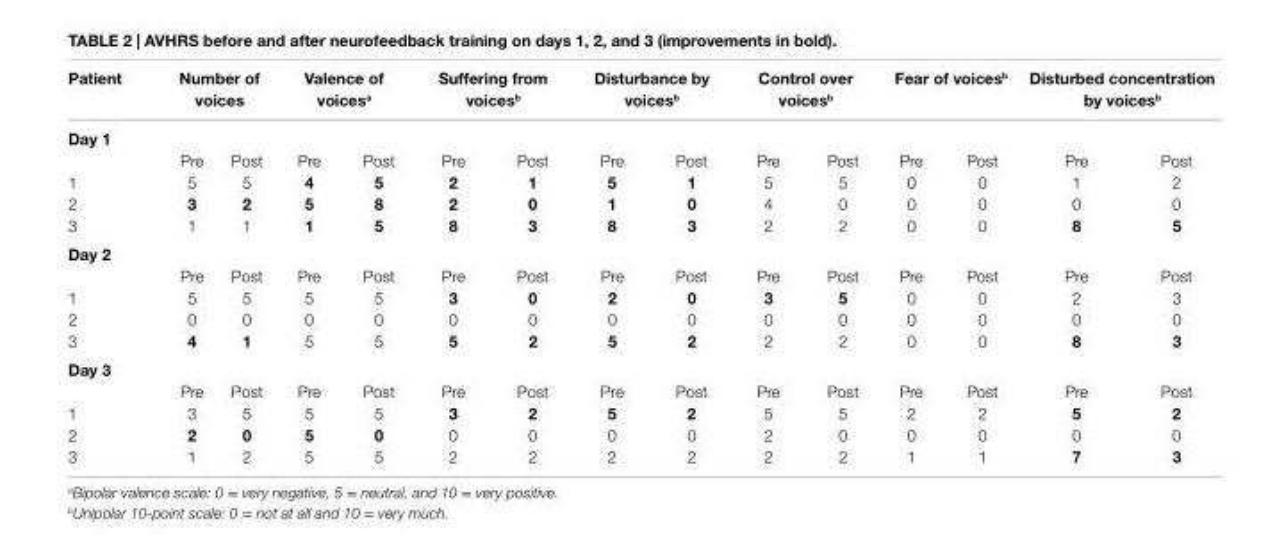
<table><thead><tr><td>patient</td><td colspan="2">Number of voices</td><td colspan="2">Valence of voices<sup>a</sup></td><td colspan="2">suffering from voices<sup>b</sup></td><td colspan="2">Disturbance by voices<sup>b</sup></td><td colspan="2">Control over voices<sup>b</sup></td><td colspan="2">Fear of voices<sup>b</sup></td><td colspan="2">Disturbed concentration by voices<sup>b</sup></td></tr><tr><td colspan="15">Day 1</td></tr><tr><td></td><td>Pre</td><td>Post</td><td>Pre</td><td>Post</td><td>Pre</td><td>Post</td><td>Pre</td><td>Post</td><td>Pre</td><td>Post</td><td>Pre</td><td>Post</td><td>Pre</td><td>Post</td></tr></thead><tbody><tr><td>1</td><td>5</td><td>5</td><td>4</td><td>5</td><td>2</td><td>1</td><td>5</td><td>1</td><td>5</td><td>5</td><td>0</td><td>0</td><td>1</td><td>2</td></tr><tr><td>2</td><td>3</td><td>2</td><td>5</td><td>8</td><td>2</td><td>0</td><td>1</td><td>0</td><td>4</td><td>0</td><td>0</td><td>0</td><td>0</td><td>0</td></tr><tr><td>3</td><td>1</td><td>1</td><td>1</td><td>5</td><td>8</td><td>3</td><td>8</td><td>3</td><td>2</td><td>2</td><td>0</td><td>0</td><td>8</td><td>5</td></tr><tr><td colspan="15">Day 2</td></tr><tr><td></td><td>Pre</td><td>Post</td><td>Pre</td><td>Post</td><td>Pre</td><td>Post</td><td>Pre</td><td>Post</td><td>Pre</td><td>Post</td><td>Pre</td><td>Post</td><td>Pre</td><td>Post</td></tr><tr><td>1</td><td>5</td><td>5</td><td>5</td><td>5</td><td>3</td><td>0</td><td>2</td><td>0</td><td>3</td><td>5</td><td>0</td><td>0</td><td>2</td><td>3</td></tr><tr><td>2</td><td>0</td><td>0</td><td>0</td><td>0</td><td>0</td><td>0</td><td>0</td><td>0</td><td>0</td><td>0</td><td>0</td><td>0</td><td>0</td><td>0</td></tr><tr><td>3</td><td>4</td><td>1</td><td>5</td><td>5</td><td>5</td><td>2</td><td>5</td><td>2</td><td>2</td><td>2</td><td>0</td><td>0</td><td>8</td><td>3</td></tr><tr><td colspan="15">Day 3</td></tr><tr><td></td><td>Pre</td><td>Post</td><td>Pre</td><td>Post</td><td>Pre</td><td>Post</td><td>Pre</td><td>Post</td><td>Pre</td><td>Post</td><td>Pre</td><td>Post</td><td>Pre</td><td>Post</td></tr><tr><td>1</td><td>3</td><td>5</td><td>5</td><td>5</td><td>3</td><td>2</td><td>5</td><td>2</td><td>5</td><td>5</td><td>2</td><td>2</td><td>5</td><td>2</td></tr><tr><td>2</td><td>2</td><td>0</td><td>5</td><td>0</td><td>0</td><td>0</td><td>0</td><td>0</td><td>2</td><td>0</td><td>0</td><td>0</td><td>0</td><td>0</td></tr><tr><td>3</td><td>1</td><td>2</td><td>5</td><td>5</td><td>2</td><td>2</td><td>2</td><td>2</td><td>2</td><td>2</td><td>1</td><td>1</td><td>7</td><td>3</td></tr></tbody></table>